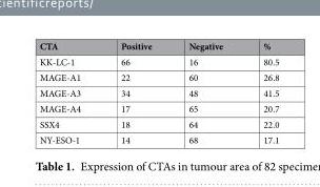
<table><thead><tr><td>CTA</td><td>Positive</td><td>Negative</td><td>%</td></tr></thead><tbody><tr><td>KK-LC-1</td><td>66</td><td>16</td><td>80.5</td></tr><tr><td>MAGE-A1</td><td>22</td><td>60</td><td>26.8</td></tr><tr><td>MAGE-A3</td><td>34</td><td>48</td><td>41.5</td></tr><tr><td>MAGE-A4</td><td>17</td><td>65</td><td>20.7</td></tr><tr><td>SSX4</td><td>18</td><td>64</td><td>22.0</td></tr><tr><td>NY-ESO-1</td><td>14</td><td>68</td><td>17.1</td></tr></tbody></table>